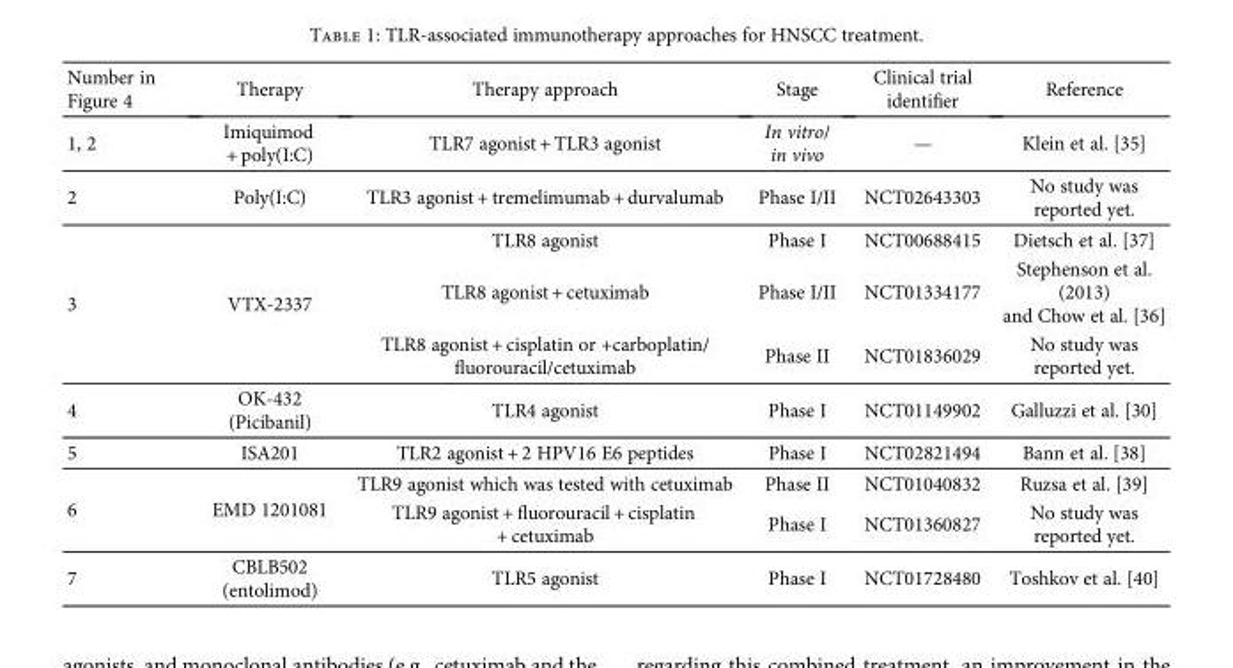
<table><thead><tr><td>Number in Figure 4</td><td>Therapy</td><td>Therapy approach</td><td>Stage</td><td>Clinical trial identifier</td><td>Reference</td></tr></thead><tbody><tr><td>1, 2</td><td>Imiquimod + poly(I:C)</td><td>TLR7 agonist + TLR3 agonist</td><td>In vitro/ in vivo</td><td>—</td><td>Klein et al. [35]</td></tr><tr><td>2</td><td>Poly(I:C)</td><td>TLR3 agonist + tremelimumab + durvalumab</td><td>Phase I/II</td><td>NCT02643303</td><td>No study was reported yet.</td></tr><tr><td rowspan="3">3</td><td rowspan="3">VTX-2337</td><td>TLR8 agonist</td><td>Phase I</td><td>NCT00688415</td><td>Dietsch et al. [37]</td></tr><tr><td>TLR8 agonist + cetuximab</td><td>Phase I/II</td><td>NCT01334177</td><td>Stephenson et al. (2013) and Chow et al. [36]</td></tr><tr><td>TLR8 agonist + cisplatin or +carboplatin/ fluorouracil/cetuximab</td><td>Phase II</td><td>NCT01836029</td><td>No study was reported yet.</td></tr><tr><td>4</td><td>OK-432 (Picibanil)</td><td>TLR4 agonist</td><td>Phase I</td><td>NCT01149902</td><td>Galluzzi et al. [30]</td></tr><tr><td>5</td><td>ISA201</td><td>TLR2 agonist + 2 HPV16 E6 peptides</td><td>Phase I</td><td>NCT02821494</td><td>Bann et al. [38]</td></tr><tr><td rowspan="2">6</td><td rowspan="2">EMD 1201081</td><td>TLR9 agonist which was tested with cetuximab</td><td>Phase II</td><td>NCT01040832</td><td>Ruzsa et al. [39]</td></tr><tr><td>TLR9 agonist + fluorouracil + cisplatin + cetuximab</td><td>Phase I</td><td>NCT01360827</td><td>No study was reported yet.</td></tr><tr><td>7</td><td>CBLB502 (entolimod)</td><td>TLR5 agonist</td><td>Phase I</td><td>NCT01728480</td><td>Toshkov et al. [40]</td></tr></tbody></table>